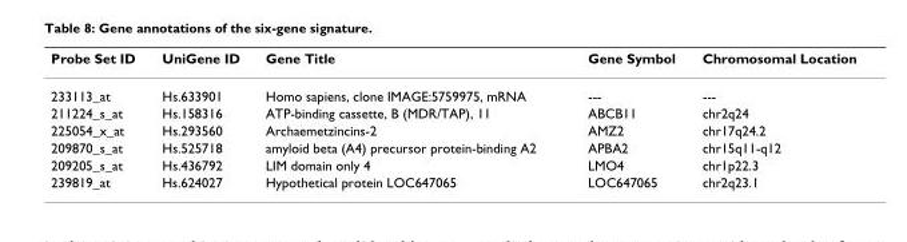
<table><thead><tr><td>Probe Set ID</td><td>UniGene ID</td><td>Gene Title</td><td>Gene Symbol</td><td>Chromosomal Location</td></tr></thead><tbody><tr><td>233113_at</td><td>Hs.633901</td><td>Homo sapiens, clone IMAGE:5759975, mRNA</td><td>---</td><td>---</td></tr><tr><td>211224_s_at</td><td>Hs.158316</td><td>ATP-binding cassette, B (MDR/TAP), 11</td><td>ABCB11</td><td>chr2q24</td></tr><tr><td>225054_x_at</td><td>Hs.293560</td><td>Archaemetzincins-2</td><td>AMZ2</td><td>chr17q24.2</td></tr><tr><td>209870_s_at</td><td>Hs.525718</td><td>amyloid beta (A4) precursor protein-binding A2</td><td>APBA2</td><td>chr15q11-q12</td></tr><tr><td>209205_s_at</td><td>Hs.436792</td><td>LIM domain only 4</td><td>LMO4</td><td>chr1p22.3</td></tr><tr><td>239819_at</td><td>Hs.624027</td><td>Hypothetical protein LOC647065</td><td>LOC647065</td><td>chr2q23.1</td></tr></tbody></table>